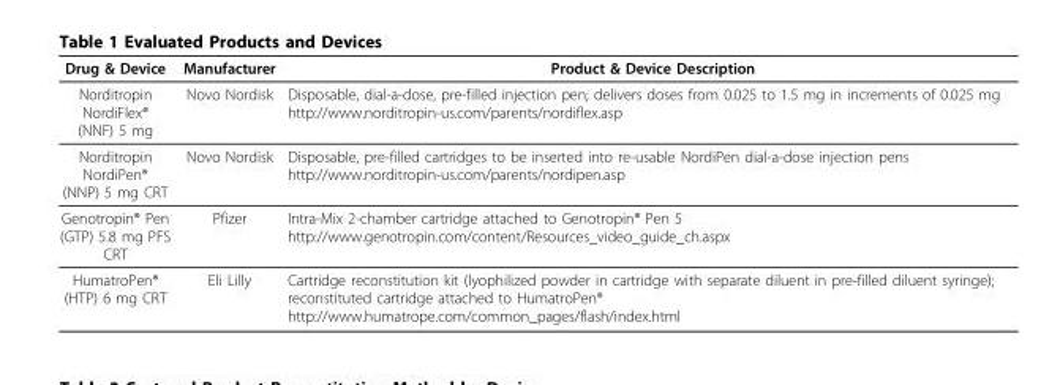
<table><thead><tr><td>Drug &amp; Device</td><td>Manufacturer</td><td>Product &amp; Device Description</td></tr></thead><tbody><tr><td>Norditropin NordiFlex<sup>®</sup> (NNF) 5 mg</td><td>Novo Nordisk</td><td>Disposable, dial-a-dose, pre-filled injection pen; delivers doses from 0.025 to 1.5 mg in increments of 0.025 mg http://www.norditropin-us.com/parents/nordiflex.asp</td></tr><tr><td>Norditropin NordiPen<sup>®</sup> (NNP) 5 mg CRT</td><td>Novo Nordisk</td><td>Disposable, pre-filled cartridges to be inserted into re-usable NordiPen dial-a-dose injection pens http://www.norditropin-us.com/parents/nordipen.asp</td></tr><tr><td>Genotropin<sup>®</sup> Pen (GTP) 5.8 mg PFS CRT</td><td>Pfizer</td><td>Intra-Mix 2-chamber cartridge attached to Genotropin<sup>®</sup> Pen 5 http://www.genotropin.com/content/Resources_video_guide_ch.aspx</td></tr><tr><td>HumatroPen<sup>®</sup> (HTP) 6 mg CRT</td><td>Eli Lilly</td><td>Cartridge reconstitution kit (lyophilized powder in cartridge with separate diluent in pre-filled diluent syringe); reconstituted cartridge attached to HumatroPen<sup>®</sup> http://www.humatrope.com/common_pages/flash/index.html</td></tr></tbody></table>